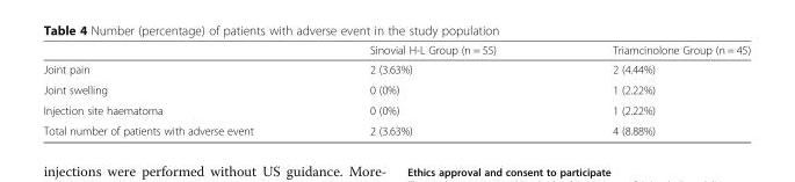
<table><thead><tr><td></td><td>Sinovial H-L Group (n = 55)</td><td>Triamcinolone Group (n = 45)</td></tr></thead><tbody><tr><td>Joint pain</td><td>2 (3.63%)</td><td>2 (4.44%)</td></tr><tr><td>Joint swelling</td><td>0 (0%)</td><td>1 (2.22%)</td></tr><tr><td>Injection site haematoma</td><td>0 (0%)</td><td>1 (2.22%)</td></tr><tr><td>Total number of patients with adverse event</td><td>2 (3.63%)</td><td>4 (8.88%)</td></tr></tbody></table>